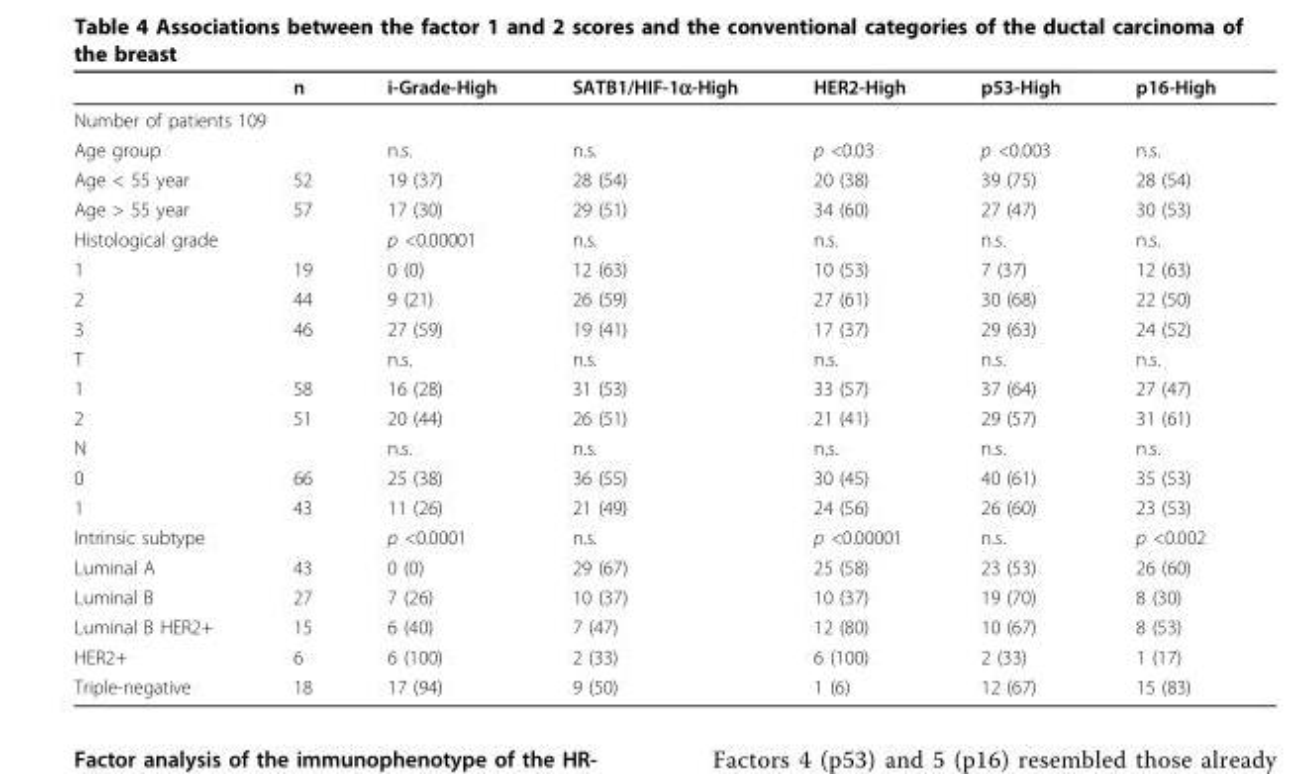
<table><thead><tr><td></td><td>n</td><td>i-Grade-High</td><td>SATB1/HIF-1α-High</td><td>HER2-High</td><td>p53-High</td><td>p16-High</td></tr></thead><tbody><tr><td colspan="7">Number of patients 109</td></tr><tr><td>Age group</td><td></td><td>n.s.</td><td>n.s.</td><td>p &lt;0.03</td><td>p &lt;0.003</td><td>n.s.</td></tr><tr><td>Age &lt; 55 year</td><td>52</td><td>19 (37)</td><td>28 (54)</td><td>20 (38)</td><td>39 (75)</td><td>28 (54)</td></tr><tr><td>Age &gt; 55 year</td><td>57</td><td>17 (30)</td><td>29 (51)</td><td>34 (60)</td><td>27 (47)</td><td>30 (53)</td></tr><tr><td>Histological grade</td><td></td><td>p &lt;0.00001</td><td>n.s.</td><td>n.s.</td><td>n.s.</td><td>n.s.</td></tr><tr><td>1</td><td>19</td><td>0 (0)</td><td>12 (63)</td><td>10 (53)</td><td>7 (37)</td><td>12 (63)</td></tr><tr><td>2</td><td>44</td><td>9 (21)</td><td>26 (59)</td><td>27 (61)</td><td>30 (68)</td><td>22 (50)</td></tr><tr><td>3</td><td>46</td><td>27 (59)</td><td>19 (41)</td><td>17 (37)</td><td>29 (63)</td><td>24 (52)</td></tr><tr><td>T</td><td></td><td>n.s.</td><td>n.s.</td><td>n.s.</td><td>n.s.</td><td>n.s.</td></tr><tr><td>1</td><td>58</td><td>16 (28)</td><td>31 (53)</td><td>33 (57)</td><td>37 (64)</td><td>27 (47)</td></tr><tr><td>2</td><td>51</td><td>20 (44)</td><td>26 (51)</td><td>21 (41)</td><td>29 (57)</td><td>31 (61)</td></tr><tr><td>N</td><td></td><td>n.s.</td><td>n.s.</td><td>n.s.</td><td>n.s.</td><td>n.s.</td></tr><tr><td>0</td><td>66</td><td>25 (38)</td><td>36 (55)</td><td>30 (45)</td><td>40 (61)</td><td>35 (53)</td></tr><tr><td>1</td><td>43</td><td>11 (26)</td><td>21 (49)</td><td>24 (56)</td><td>26 (60)</td><td>23 (53)</td></tr><tr><td>Intrinsic subtype</td><td></td><td>p &lt;0.0001</td><td>n.s.</td><td>p &lt;0.00001</td><td>n.s.</td><td>p &lt;0.002</td></tr><tr><td>Luminal A</td><td>43</td><td>0 (0)</td><td>29 (67)</td><td>25 (58)</td><td>23 (53)</td><td>26 (60)</td></tr><tr><td>Luminal B</td><td>27</td><td>7 (26)</td><td>10 (37)</td><td>10 (37)</td><td>19 (70)</td><td>8 (30)</td></tr><tr><td>Luminal B HER2+</td><td>15</td><td>6 (40)</td><td>7 (47)</td><td>12 (80)</td><td>10 (67)</td><td>8 (53)</td></tr><tr><td>HER2+</td><td>6</td><td>6 (100)</td><td>2 (33)</td><td>6 (100)</td><td>2 (33)</td><td>1 (17)</td></tr><tr><td>Triple-negative</td><td>18</td><td>17 (94)</td><td>9 (50)</td><td>1 (6)</td><td>12 (67)</td><td>15 (83)</td></tr></tbody></table>